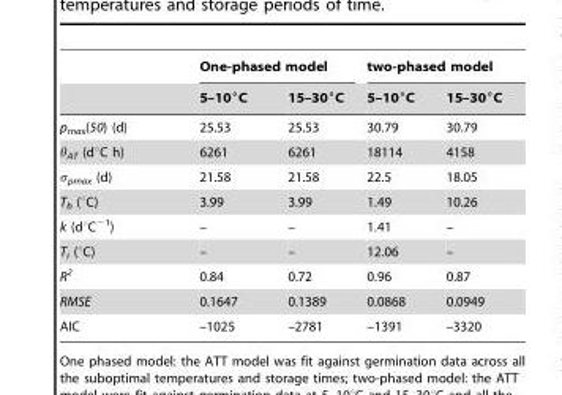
<table><thead><tr><td rowspan="2"></td><td colspan="2">One-phased model</td><td colspan="2">two-phased model</td></tr><tr><td>5–10°C</td><td>15–30°C</td><td>5–10°C</td><td>15–30°C</td></tr></thead><tbody><tr><td>p<sub>max</sub>(50) (d)</td><td>25.53</td><td>25.53</td><td>30.79</td><td>30.79</td></tr><tr><td>θ<sub>AT</sub> (d°C h)</td><td>6261</td><td>6261</td><td>18114</td><td>4158</td></tr><tr><td>σ<sub>pmax</sub> (d)</td><td>21.58</td><td>21.58</td><td>22.5</td><td>18.05</td></tr><tr><td>T<sub>b</sub> (°C)</td><td>3.99</td><td>3.99</td><td>1.49</td><td>10.26</td></tr><tr><td>k (d°C<sup>−1</sup>)</td><td>–</td><td>–</td><td>1.41</td><td>–</td></tr><tr><td>T<sub>i</sub> (°C)</td><td>–</td><td>–</td><td>12.06</td><td>–</td></tr><tr><td>R<sup>2</sup></td><td>0.84</td><td>0.72</td><td>0.96</td><td>0.87</td></tr><tr><td>RMSE</td><td>0.1647</td><td>0.1389</td><td>0.0868</td><td>0.0949</td></tr><tr><td>AIC</td><td>–1025</td><td>–2781</td><td>–1391</td><td>–3320</td></tr></tbody></table>